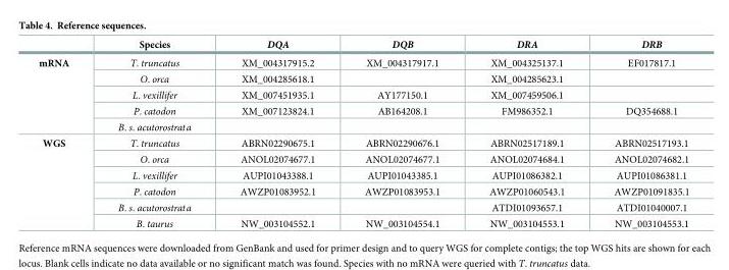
<table><thead><tr><td></td><td>Species</td><td>DQA</td><td>DQB</td><td>DRA</td><td>DRB</td></tr></thead><tbody><tr><td rowspan="5">mRNA</td><td>T. truncatus</td><td>XM_004317915.2</td><td>XM_004317917.1</td><td>XM_004325137.1</td><td>EF017817.1</td></tr><tr><td>O. orca</td><td>XM_004285618.1</td><td></td><td>XM_004285623.1</td><td></td></tr><tr><td>L. vexillifer</td><td>XM_007451935.1</td><td>AY177150.1</td><td>XM_007459506.1</td><td></td></tr><tr><td>P. catodon</td><td>XM_007123824.1</td><td>AB164208.1</td><td>FM986352.1</td><td>DQ354688.1</td></tr><tr><td>B. s. acutorostrata</td><td></td><td></td><td></td><td></td></tr><tr><td rowspan="6">WGS</td><td>T. truncatus</td><td>ABRN02290675.1</td><td>ABRN02290676.1</td><td>ABRN02517189.1</td><td>ABRN02517193.1</td></tr><tr><td>O. orca</td><td>ANOL02074677.1</td><td>ANOL02074677.1</td><td>ANOL02074684.1</td><td>ANOL02074682.1</td></tr><tr><td>L. vexillifer</td><td>AUPI01043388.1</td><td>AUPI01043385.1</td><td>AUPI01086382.1</td><td>AUPI01086381.1</td></tr><tr><td>P. catodon</td><td>AWZP01083952.1</td><td>AWZP01083953.1</td><td>AWZP01060543.1</td><td>AWZP01091835.1</td></tr><tr><td>B. s. acutorostrata</td><td></td><td></td><td>ATDI01093657.1</td><td>ATDI01040007.1</td></tr><tr><td>B. taurus</td><td>NW_003104552.1</td><td>NW_003104554.1</td><td>NW_003104553.1</td><td>NW_003104553.1</td></tr></tbody></table>